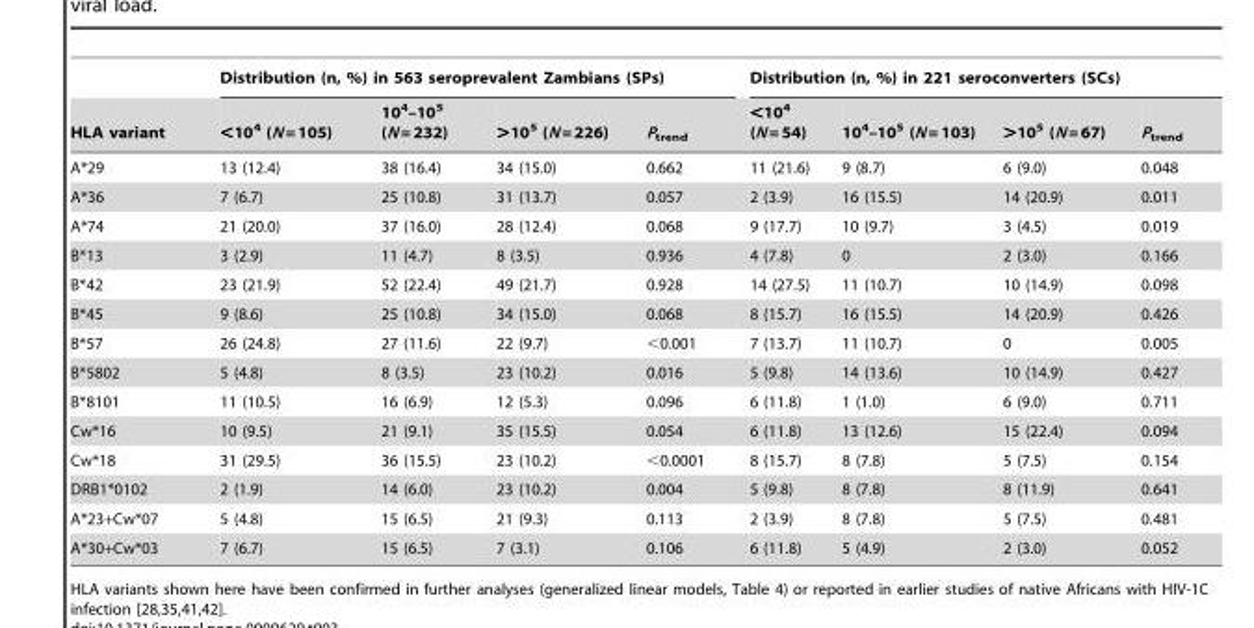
<table><thead><tr><td rowspan="2">HLA variant</td><td colspan="4">Distribution (n, %) in 563 seroprevalent Zambians (SPs)</td><td colspan="4">Distribution (n, %) in 221 seroconverters (SCs)</td></tr><tr><td>&lt;10<sup>4</sup> (N = 105)</td><td>10<sup>4</sup>–10<sup>5</sup> (N = 232)</td><td>&gt;10<sup>5</sup> (N = 226)</td><td>P<sub>trend</sub></td><td>&lt;10<sup>4</sup> (N = 54)</td><td>10<sup>4</sup>–10<sup>5</sup> (N = 103)</td><td>&gt;10<sup>5</sup> (N = 67)</td><td>P<sub>trend</sub></td></tr></thead><tbody><tr><td>A*29</td><td>13 (12.4)</td><td>38 (16.4)</td><td>34 (15.0)</td><td>0.662</td><td>11 (21.6)</td><td>9 (8.7)</td><td>6 (9.0)</td><td>0.048</td></tr><tr><td>A*36</td><td>7 (6.7)</td><td>25 (10.8)</td><td>31 (13.7)</td><td>0.057</td><td>2 (3.9)</td><td>16 (15.5)</td><td>14 (20.9)</td><td>0.011</td></tr><tr><td>A*74</td><td>21 (20.0)</td><td>37 (16.0)</td><td>28 (12.4)</td><td>0.068</td><td>9 (17.7)</td><td>10 (9.7)</td><td>3 (4.5)</td><td>0.019</td></tr><tr><td>B*13</td><td>3 (2.9)</td><td>11 (4.7)</td><td>8 (3.5)</td><td>0.936</td><td>4 (7.8)</td><td>0</td><td>2 (3.0)</td><td>0.166</td></tr><tr><td>B*42</td><td>23 (21.9)</td><td>52 (22.4)</td><td>49 (21.7)</td><td>0.928</td><td>14 (27.5)</td><td>11 (10.7)</td><td>10 (14.9)</td><td>0.098</td></tr><tr><td>B*45</td><td>9 (8.6)</td><td>25 (10.8)</td><td>34 (15.0)</td><td>0.068</td><td>8 (15.7)</td><td>16 (15.5)</td><td>14 (20.9)</td><td>0.426</td></tr><tr><td>B*57</td><td>26 (24.8)</td><td>27 (11.6)</td><td>22 (9.7)</td><td>&lt;0.001</td><td>7 (13.7)</td><td>11 (10.7)</td><td>0</td><td>0.005</td></tr><tr><td>B*5802</td><td>5 (4.8)</td><td>8 (3.5)</td><td>23 (10.2)</td><td>0.016</td><td>5 (9.8)</td><td>14 (13.6)</td><td>10 (14.9)</td><td>0.427</td></tr><tr><td>B*8101</td><td>11 (10.5)</td><td>16 (6.9)</td><td>12 (5.3)</td><td>0.096</td><td>6 (11.8)</td><td>1 (1.0)</td><td>6 (9.0)</td><td>0.711</td></tr><tr><td>Cw*16</td><td>10 (9.5)</td><td>21 (9.1)</td><td>35 (15.5)</td><td>0.054</td><td>6 (11.8)</td><td>13 (12.6)</td><td>15 (22.4)</td><td>0.094</td></tr><tr><td>Cw*18</td><td>31 (29.5)</td><td>36 (15.5)</td><td>23 (10.2)</td><td>&lt;0.0001</td><td>8 (15.7)</td><td>8 (7.8)</td><td>5 (7.5)</td><td>0.154</td></tr><tr><td>DRB1*0102</td><td>2 (1.9)</td><td>14 (6.0)</td><td>23 (10.2)</td><td>0.004</td><td>5 (9.8)</td><td>8 (7.8)</td><td>8 (11.9)</td><td>0.641</td></tr><tr><td>A*23+Cw*07</td><td>5 (4.8)</td><td>15 (6.5)</td><td>21 (9.3)</td><td>0.113</td><td>2 (3.9)</td><td>8 (7.8)</td><td>5 (7.5)</td><td>0.481</td></tr><tr><td>A*30+Cw*03</td><td>7 (6.7)</td><td>15 (6.5)</td><td>7 (3.1)</td><td>0.106</td><td>6 (11.8)</td><td>5 (4.9)</td><td>2 (3.0)</td><td>0.052</td></tr></tbody></table>